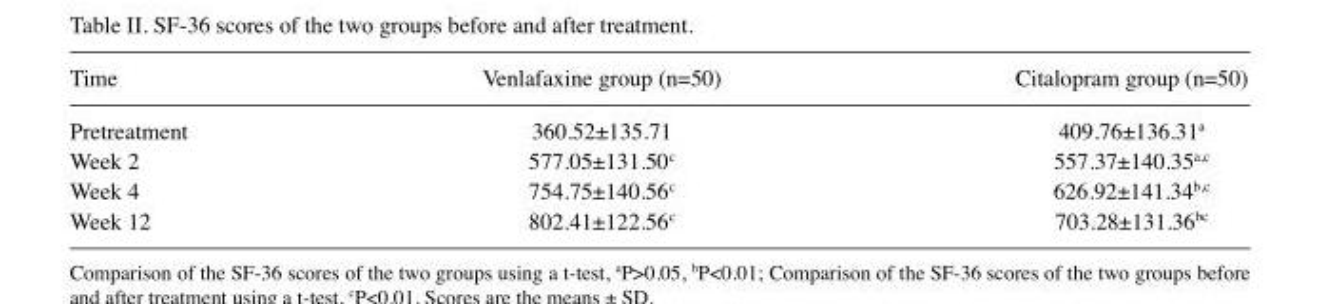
<table><thead><tr><td>Time</td><td>Venlafaxine group (n=50)</td><td>Citalopram group (n=50)</td></tr></thead><tbody><tr><td>Pretreatment</td><td>360.52±135.71</td><td>409.76±136.31<sup>a</sup></td></tr><tr><td>Week 2</td><td>577.05±131.50<sup>c</sup></td><td>557.37±140.35<sup>a,c</sup></td></tr><tr><td>Week 4</td><td>754.75±140.56<sup>c</sup></td><td>626.92±141.34<sup>b,c</sup></td></tr><tr><td>Week 12</td><td>802.41±122.56<sup>c</sup></td><td>703.28±131.36b<sup>c</sup></td></tr></tbody></table>